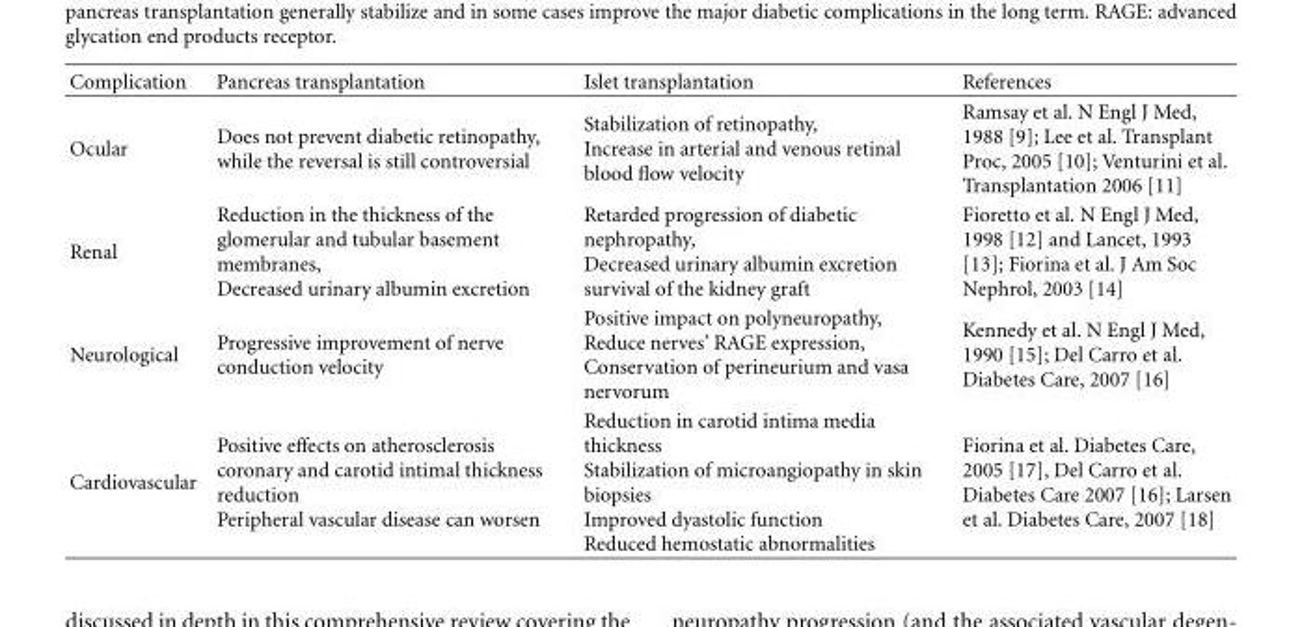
<table><thead><tr><td>Complication</td><td>Pancreas transplantation</td><td>Islet transplantation</td><td>References</td></tr></thead><tbody><tr><td>Ocular</td><td>Does not prevent diabetic retinopathy, while the reversal is still controversial</td><td>Stabilization of retinopathy, Increase in arterial and venous retinal blood flow velocity</td><td>Ramsay et al. N Engl J Med, 1988 [9]; Lee et al. Transplant Proc, 2005 [10]; Venturini et al. Transplantation 2006 [11]</td></tr><tr><td>Renal</td><td>Reduction in the thickness of the glomerular and tubular basement membranes, Decreased urinary albumin excretion</td><td>Retarded progression of diabetic nephropathy, Decreased urinary albumin excretion survival of the kidney graft</td><td>Fioretto et al. N Engl J Med, 1998 [12] and Lancet, 1993 [13]; Fiorina et al. J Am Soc Nephrol, 2003 [14]</td></tr><tr><td>Neurological</td><td>Progressive improvement of nerve conduction velocity</td><td>Positive impact on polyneuropathy, Reduce nerves’ RAGE expression, Conservation of perineurium and vasa nervorum</td><td>Kennedy et al. N Engl J Med, 1990 [15]; Del Carro et al. Diabetes Care, 2007 [16]</td></tr><tr><td>Cardiovascular</td><td>Positive effects on atherosclerosis coronary and carotid intimal thickness reduction Peripheral vascular disease can worsen</td><td>Reduction in carotid intima media thickness Stabilization of microangiopathy in skin biopsies Improved dyastolic function Reduced hemostatic abnormalities</td><td>Fiorina et al. Diabetes Care, 2005 [17], Del Carro et al. Diabetes Care 2007 [16]; Larsen et al. Diabetes Care, 2007 [18]</td></tr></tbody></table>